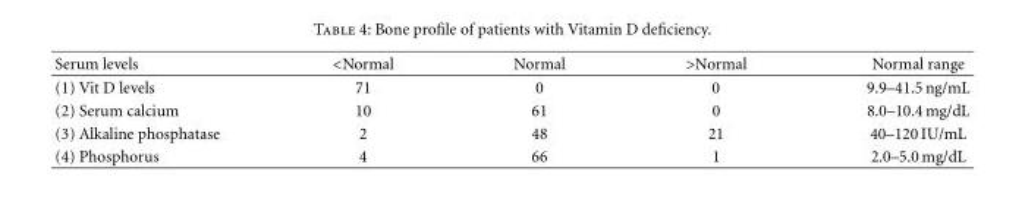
<table><thead><tr><td>Serum levels</td><td>&lt;Normal</td><td>Normal</td><td>&gt;Normal</td><td>Normal range</td></tr></thead><tbody><tr><td>(1) Vit D levels</td><td>71</td><td>0</td><td>0</td><td>9.9–41.5 ng/mL</td></tr><tr><td>(2) Serum calcium</td><td>10</td><td>61</td><td>0</td><td>8.0–10.4 mg/dL</td></tr><tr><td>(3) Alkaline phosphatase</td><td>2</td><td>48</td><td>21</td><td>40–120 IU/mL</td></tr><tr><td>(4) Phosphorus</td><td>4</td><td>66</td><td>1</td><td>2.0–5.0 mg/dL</td></tr></tbody></table>